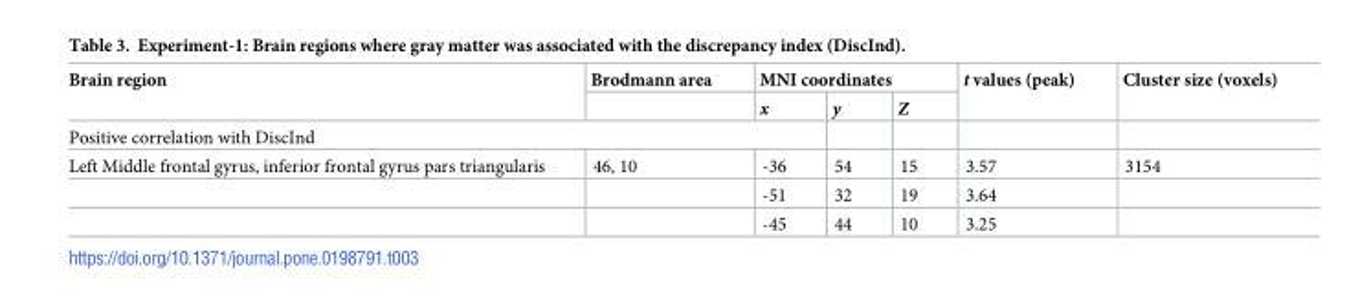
<table><thead><tr><td rowspan="2">Brain region</td><td rowspan="2">Brodmann area</td><td colspan="3">MNI coordinates</td><td rowspan="2">t values (peak)</td><td rowspan="2">Cluster size (voxels)</td></tr><tr><td>x</td><td>y</td><td>Z</td></tr></thead><tbody><tr><td colspan="7">Positive correlation with DiscInd</td></tr><tr><td rowspan="3">Left Middle frontal gyrus, inferior frontal gyrus pars triangularis</td><td>46, 10</td><td>-36</td><td>54</td><td>15</td><td>3.57</td><td>3154</td></tr><tr><td></td><td>-51</td><td>32</td><td>19</td><td>3.64</td><td></td></tr><tr><td></td><td>-45</td><td>44</td><td>10</td><td>3.25</td><td></td></tr></tbody></table>